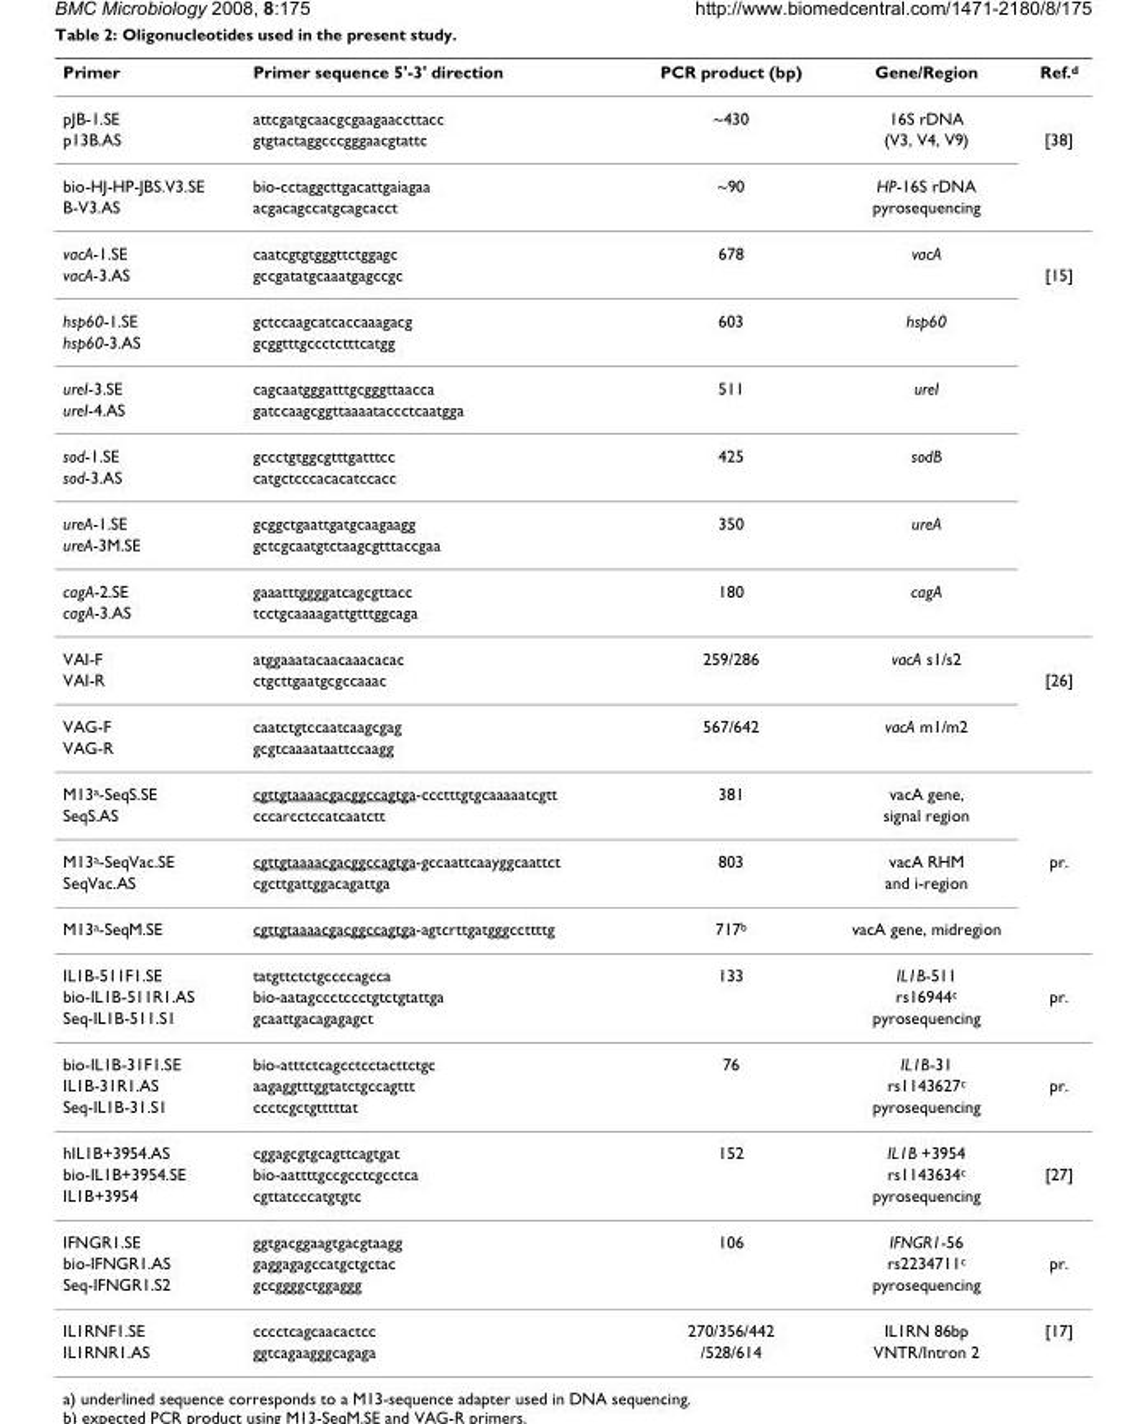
<table><thead><tr><td>Primer</td><td>Primer sequence 5&#x27;-3&#x27; direction</td><td>PCR product (bp)</td><td>Gene/Region</td><td>Ref.<sup>d</sup></td></tr></thead><tbody><tr><td>pJB-1.SE</td><td>attcgatgcaacgcgaagaaccttacc</td><td>~430</td><td>16S rDNA</td><td></td></tr><tr><td>p13B.AS</td><td>gtgtactaggcccgggaacgtattc</td><td></td><td>(V3, V4, V9)</td><td>[38]</td></tr><tr><td>bio-HJ-HP-JBS.V3.SE</td><td>bio-cctaggcttgacattgaiagaa</td><td>~90</td><td>HP-16S rDNA</td><td></td></tr><tr><td>B-V3.AS</td><td>acgacagccatgcagcacct</td><td></td><td>pyrosequencing</td><td></td></tr><tr><td>vacA-1.SE</td><td>caatcgtgtgggttctggagc</td><td>678</td><td>vacA</td><td></td></tr><tr><td>vacA-3.AS</td><td>gccgatatgcaaatgagccgc</td><td></td><td></td><td>[15]</td></tr><tr><td>hsp60-1.SE</td><td>gctccaagcatcaccaaagacg</td><td>603</td><td>hsp60</td><td></td></tr><tr><td>hsp60-3.AS</td><td>gcggtttgccctctttcatgg</td><td></td><td></td><td></td></tr><tr><td>ureI-3.SE</td><td>cagcaatgggatttgcgggttaacca</td><td>511</td><td>ureI</td><td></td></tr><tr><td>ureI-4.AS</td><td>gatccaagcggttaaaataccctcaatgga</td><td></td><td></td><td></td></tr><tr><td>sod-1.SE</td><td>gccctgtggcgtttgatttcc</td><td>425</td><td>sodB</td><td></td></tr><tr><td>sod-3.AS</td><td>catgctcccacacatccacc</td><td></td><td></td><td></td></tr><tr><td>ureA-1.SE</td><td>gcggctgaattgatgcaagaagg</td><td>350</td><td>ureA</td><td></td></tr><tr><td>ureA-3M.SE</td><td>gctcgcaatgtctaagcgtttaccgaa</td><td></td><td></td><td></td></tr><tr><td>cagA-2.SE</td><td>gaaatttggggatcagcgttacc</td><td>180</td><td>cagA</td><td></td></tr><tr><td>cagA-3.AS</td><td>tcctgcaaaagattgtttggcaga</td><td></td><td></td><td></td></tr><tr><td>VAI-F</td><td>atggaaatacaacaaacacac</td><td>259/286</td><td>vacA s1/s2</td><td></td></tr><tr><td>VAI-R</td><td>ctgcttgaatgcgccaaac</td><td></td><td></td><td>[26]</td></tr><tr><td>VAG-F</td><td>caatctgtccaatcaagcgag</td><td>567/642</td><td>vacA m1/m2</td><td></td></tr><tr><td>VAG-R</td><td>gcgtcaaaataattccaagg</td><td></td><td></td><td></td></tr><tr><td>M13<sup>a</sup>-SeqS.SE</td><td>cgttgtaaaacgacggccagtga-ccctttgtgcaaaaatcgtt</td><td>381</td><td>vacA gene,</td><td></td></tr><tr><td>SeqS.AS</td><td>cccarcctccatcaatctt</td><td></td><td>signal region</td><td></td></tr><tr><td>M13<sup>a</sup>-SeqVac.SE</td><td>cgttgtaaaacgacggccagtga-gccaattcaayggcaattct</td><td>803</td><td>vacA RHM</td><td>pr.</td></tr><tr><td>SeqVac.AS</td><td>cgcttgattggacagattga</td><td></td><td>and i-region</td><td></td></tr><tr><td>M13<sup>a</sup>-SeqM.SE</td><td>cgttgtaaaacgacggccagtga-agtcrttgatgggccttttg</td><td>717<sup>b</sup></td><td>vacA gene, midregion</td><td></td></tr><tr><td>IL1B-511F1.SE</td><td>tatgttctctgccccagcca</td><td>133</td><td>IL1B-511</td><td></td></tr><tr><td>bio-IL1B-511R1.AS</td><td>bio-aatagccctccctgtctgtattga</td><td></td><td>rs16944<sup>c</sup></td><td>pr.</td></tr><tr><td>Seq-IL1B-511.S1</td><td>gcaattgacagagagct</td><td></td><td>pyrosequencing</td><td></td></tr><tr><td>bio-IL1B-31F1.SE</td><td>bio-atttctcagcctcctacttctgc</td><td>76</td><td>IL1B-31</td><td></td></tr><tr><td>IL1B-31R1.AS</td><td>aagaggtttggtatctgccagttt</td><td></td><td>rs1143627<sup>c</sup></td><td>pr.</td></tr><tr><td>Seq-IL1B-31.S1</td><td>ccctcgctgtttttat</td><td></td><td>pyrosequencing</td><td></td></tr><tr><td>hIL1B+3954.AS</td><td>cggagcgtgcagttcagtgat</td><td>152</td><td>IL1B +3954</td><td></td></tr><tr><td>bio-IL1B+3954.SE</td><td>bio-aattttgccgcctcgcctca</td><td></td><td>rs1143634<sup>c</sup></td><td>[27]</td></tr><tr><td>IL1B+3954</td><td>cgttatcccatgtgtc</td><td></td><td>pyrosequencing</td><td></td></tr><tr><td>IFNGR1.SE</td><td>ggtgacggaagtgacgtaagg</td><td>106</td><td>IFNGR1-56</td><td></td></tr><tr><td>bio-IFNGR1.AS</td><td>gaggagagccatgctgctac</td><td></td><td>rs2234711<sup>c</sup></td><td>pr.</td></tr><tr><td>Seq-IFNGR1.S2</td><td>gccggggctggaggg</td><td></td><td>pyrosequencing</td><td></td></tr><tr><td>IL1RNF1.SE</td><td>cccctcagcaacactcc</td><td>270/356/442</td><td>IL1RN 86bp</td><td>[17]</td></tr><tr><td>IL1RNR1.AS</td><td>ggtcagaagggcagaga</td><td>/528/614</td><td>VNTR/Intron 2</td><td></td></tr></tbody></table>